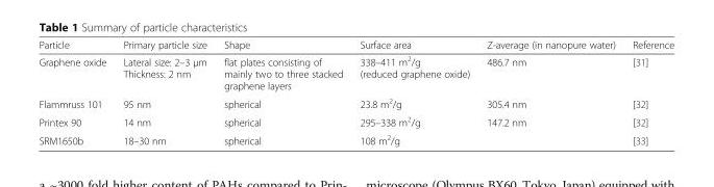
<table><thead><tr><td>Particle</td><td>Primary particle size</td><td>Shape</td><td>Surface area</td><td>Z-average (in nanopure water)</td><td>Reference</td></tr></thead><tbody><tr><td>Graphene oxide</td><td>Lateral size: 2–3 μm Thickness: 2 nm</td><td>flat plates consisting of mainly two to three stacked graphene layers</td><td>338–411 m<sup>2</sup>/g (reduced graphene oxide)</td><td>486.7 nm</td><td>[31]</td></tr><tr><td>Flammruss 101</td><td>95 nm</td><td>spherical</td><td>23.8 m<sup>2</sup>/g</td><td>305.4 nm</td><td>[32]</td></tr><tr><td>Printex 90</td><td>14 nm</td><td>spherical</td><td>295–338 m<sup>2</sup>/g</td><td>147.2 nm</td><td>[32]</td></tr><tr><td>SRM1650b</td><td>18–30 nm</td><td>spherical</td><td>108 m<sup>2</sup>/g</td><td></td><td>[33]</td></tr></tbody></table>